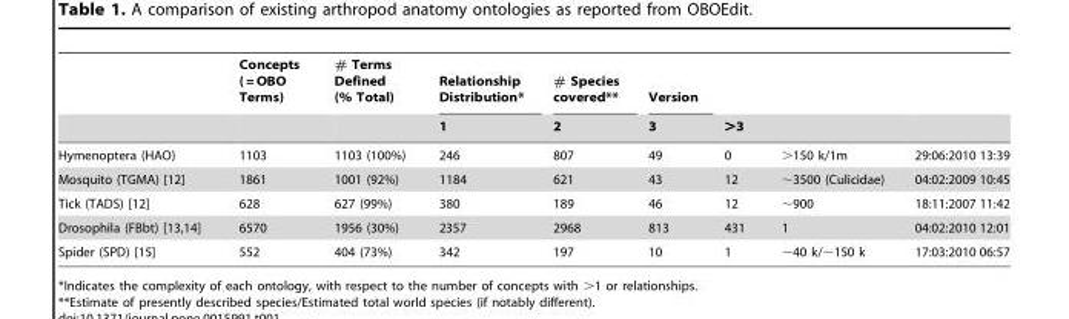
<table><thead><tr><td rowspan="2"></td><td rowspan="2">Concepts ( = OBO Terms)</td><td rowspan="2"># Terms Defined (% Total)</td><td rowspan="2">Relationship Distribution* 1</td><td rowspan="2"># Species covered** 2</td><td rowspan="2">Version 3</td><td rowspan="2">&gt;3</td><td rowspan="2"></td><td rowspan="2"></td></tr><tr></tr></thead><tbody><tr><td>Hymenoptera (HAO)</td><td>1103</td><td>1103 (100%)</td><td>246</td><td>807</td><td>49</td><td>0</td><td>&gt;150 k/1m</td><td>29:06:2010 13:39</td></tr><tr><td>Mosquito (TGMA) [12]</td><td>1861</td><td>1001 (92%)</td><td>1184</td><td>621</td><td>43</td><td>12</td><td>∼3500 (Culicidae)</td><td>04:02:2009 10:45</td></tr><tr><td>Tick (TADS) [12]</td><td>628</td><td>627 (99%)</td><td>380</td><td>189</td><td>46</td><td>12</td><td>∼900</td><td>18:11:2007 11:42</td></tr><tr><td>Drosophila (FBbt) [13,14]</td><td>6570</td><td>1956 (30%)</td><td>2357</td><td>2968</td><td>813</td><td>431</td><td>1</td><td>04:02:2010 12:01</td></tr><tr><td>Spider (SPD) [15]</td><td>552</td><td>404 (73%)</td><td>342</td><td>197</td><td>10</td><td>1</td><td>∼40 k/∼150 k</td><td>17:03:2010 06:57</td></tr></tbody></table>